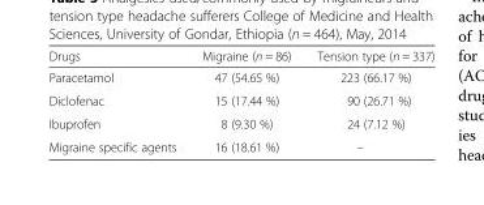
<table><thead><tr><td>Drugs</td><td>Migraine (n = 86)</td><td>Tension type (n = 337)</td></tr></thead><tbody><tr><td>Paracetamol</td><td>47 (54.65 %)</td><td>223 (66.17 %)</td></tr><tr><td>Diclofenac</td><td>15 (17.44 %)</td><td>90 (26.71 %)</td></tr><tr><td>Ibuprofen</td><td>8 (9.30 %)</td><td>24 (7.12 %)</td></tr><tr><td>Migraine specific agents</td><td>16 (18.61 %)</td><td>–</td></tr></tbody></table>